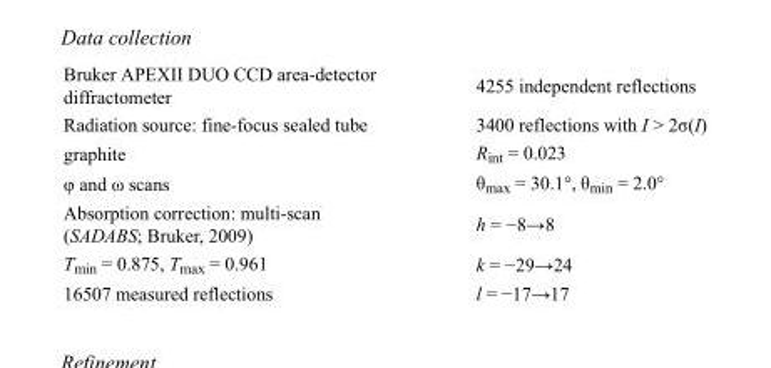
<table><tbody><tr><td>Bruker APEXII DUO CCD area-detector diffractometer</td><td>4255 independent reflections</td></tr><tr><td>Radiation source: fine-focus sealed tube</td><td>3400 reflections with I &gt; 2σ(I)</td></tr><tr><td>graphite</td><td>R<sub>int</sub> = 0.023</td></tr><tr><td>φ and ω scans</td><td>θ<sub>max</sub> = 30.1°, θ<sub>min</sub> = 2.0°</td></tr><tr><td>Absorption correction: multi-scan (SADABS; Bruker, 2009)</td><td>h = −8→8</td></tr><tr><td>T<sub>min</sub> = 0.875, T<sub>max</sub> = 0.961</td><td>k = −29→24</td></tr><tr><td>16507 measured reflections</td><td>l = −17→17</td></tr></tbody></table>